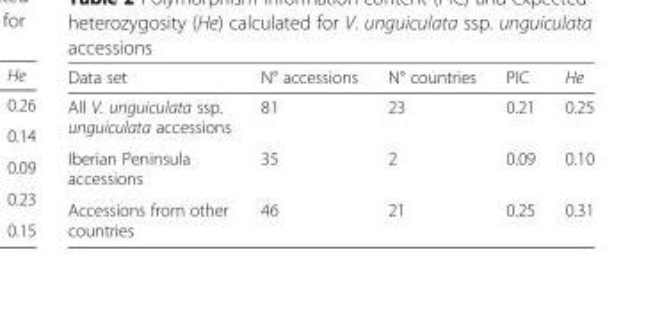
<table><thead><tr><td>Data set</td><td>N° accessions</td><td>N° countries</td><td>PIC</td><td>He</td></tr></thead><tbody><tr><td>All V. unguiculata ssp. unguiculata accessions</td><td>81</td><td>23</td><td>0.21</td><td>0.25</td></tr><tr><td>Iberian Peninsula accessions</td><td>35</td><td>2</td><td>0.09</td><td>0.10</td></tr><tr><td>Accessions from other countries</td><td>46</td><td>21</td><td>0.25</td><td>0.31</td></tr></tbody></table>